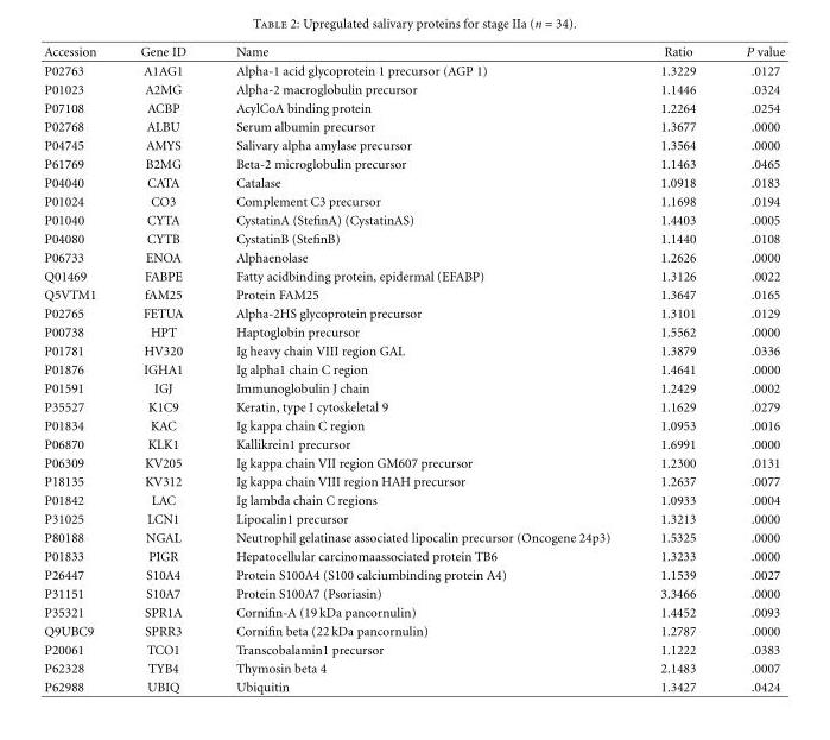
<table><thead><tr><td>Accession</td><td>Gene ID</td><td>Name</td><td>Ratio</td><td>P value</td></tr></thead><tbody><tr><td>P02763</td><td>A1AG1</td><td>Alpha-1 acid glycoprotein 1 precursor (AGP 1)</td><td>1.3229</td><td>.0127</td></tr><tr><td>P01023</td><td>A2MG</td><td>Alpha-2 macroglobulin precursor</td><td>1.1446</td><td>.0324</td></tr><tr><td>P07108</td><td>ACBP</td><td>AcylCoA binding protein</td><td>1.2264</td><td>.0254</td></tr><tr><td>P02768</td><td>ALBU</td><td>Serum albumin precursor</td><td>1.3677</td><td>.0000</td></tr><tr><td>P04745</td><td>AMYS</td><td>Salivary alpha amylase precursor</td><td>1.3564</td><td>.0000</td></tr><tr><td>P61769</td><td>B2MG</td><td>Beta-2 microglobulin precursor</td><td>1.1463</td><td>.0465</td></tr><tr><td>P04040</td><td>CATA</td><td>Catalase</td><td>1.0918</td><td>.0183</td></tr><tr><td>P01024</td><td>CO3</td><td>Complement C3 precursor</td><td>1.1698</td><td>.0194</td></tr><tr><td>P01040</td><td>CYTA</td><td>CystatinA (StefinA) (CystatinAS)</td><td>1.4403</td><td>.0005</td></tr><tr><td>P04080</td><td>CYTB</td><td>CystatinB (StefinB)</td><td>1.1440</td><td>.0108</td></tr><tr><td>P06733</td><td>ENOA</td><td>Alphaenolase</td><td>1.2626</td><td>.0000</td></tr><tr><td>Q01469</td><td>FABPE</td><td>Fatty acidbinding protein, epidermal (EFABP)</td><td>1.3126</td><td>.0022</td></tr><tr><td>Q5VTM1</td><td>fAM25</td><td>Protein FAM25</td><td>1.3647</td><td>.0165</td></tr><tr><td>P02765</td><td>FETUA</td><td>Alpha-2HS glycoprotein precursor</td><td>1.3101</td><td>.0129</td></tr><tr><td>P00738</td><td>HPT</td><td>Haptoglobin precursor</td><td>1.5562</td><td>.0000</td></tr><tr><td>P01781</td><td>HV320</td><td>Ig heavy chain VIII region GAL</td><td>1.3879</td><td>.0336</td></tr><tr><td>P01876</td><td>IGHA1</td><td>Ig alpha1 chain C region</td><td>1.4641</td><td>.0000</td></tr><tr><td>P01591</td><td>IGJ</td><td>Immunoglobulin J chain</td><td>1.2429</td><td>.0002</td></tr><tr><td>P35527</td><td>K1C9</td><td>Keratin, type I cytoskeletal 9</td><td>1.1629</td><td>.0279</td></tr><tr><td>P01834</td><td>KAC</td><td>Ig kappa chain C region</td><td>1.0953</td><td>.0016</td></tr><tr><td>P06870</td><td>KLK1</td><td>Kallikrein1 precursor</td><td>1.6991</td><td>.0000</td></tr><tr><td>P06309</td><td>KV205</td><td>Ig kappa chain VII region GM607 precursor</td><td>1.2300</td><td>.0131</td></tr><tr><td>P18135</td><td>KV312</td><td>Ig kappa chain VIII region HAH precursor</td><td>1.2637</td><td>.0077</td></tr><tr><td>P01842</td><td>LAC</td><td>Ig lambda chain C regions</td><td>1.0933</td><td>.0004</td></tr><tr><td>P31025</td><td>LCN1</td><td>Lipocalin1 precursor</td><td>1.3213</td><td>.0000</td></tr><tr><td>P80188</td><td>NGAL</td><td>Neutrophil gelatinase associated lipocalin precursor (Oncogene 24p3)</td><td>1.5325</td><td>.0000</td></tr><tr><td>P01833</td><td>PIGR</td><td>Hepatocellular carcinomaassociated protein TB6</td><td>1.3233</td><td>.0000</td></tr><tr><td>P26447</td><td>S10A4</td><td>Protein S100A4 (S100 calciumbinding protein A4)</td><td>1.1539</td><td>.0027</td></tr><tr><td>P31151</td><td>S10A7</td><td>Protein S100A7 (Psoriasin)</td><td>3.3466</td><td>.0000</td></tr><tr><td>P35321</td><td>SPR1A</td><td>Cornifin-A (19 kDa pancornulin)</td><td>1.4452</td><td>.0093</td></tr><tr><td>Q9UBC9</td><td>SPRR3</td><td>Cornifin beta (22 kDa pancornulin)</td><td>1.2787</td><td>.0000</td></tr><tr><td>P20061</td><td>TCO1</td><td>Transcobalamin1 precursor</td><td>1.1222</td><td>.0383</td></tr><tr><td>P62328</td><td>TYB4</td><td>Thymosin beta 4</td><td>2.1483</td><td>.0007</td></tr><tr><td>P62988</td><td>UBIQ</td><td>Ubiquitin</td><td>1.3427</td><td>.0424</td></tr></tbody></table>